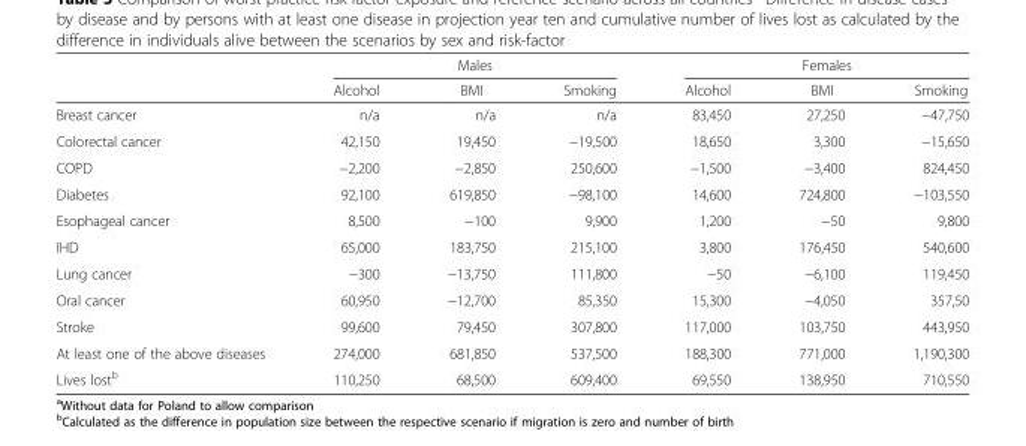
<table><thead><tr><td rowspan="2"></td><td colspan="3">Males</td><td colspan="3">Females</td></tr><tr><td>Alcohol</td><td>BMI</td><td>Smoking</td><td>Alcohol</td><td>BMI</td><td>Smoking</td></tr></thead><tbody><tr><td>Breast cancer</td><td>n/a</td><td>n/a</td><td>n/a</td><td>83,450</td><td>27,250</td><td>−47,750</td></tr><tr><td>Colorectal cancer</td><td>42,150</td><td>19,450</td><td>−19,500</td><td>18,650</td><td>3,300</td><td>−15,650</td></tr><tr><td>COPD</td><td>−2,200</td><td>−2,850</td><td>250,600</td><td>−1,500</td><td>−3,400</td><td>824,450</td></tr><tr><td>Diabetes</td><td>92,100</td><td>619,850</td><td>−98,100</td><td>14,600</td><td>724,800</td><td>−103,550</td></tr><tr><td>Esophageal cancer</td><td>8,500</td><td>−100</td><td>9,900</td><td>1,200</td><td>−50</td><td>9,800</td></tr><tr><td>IHD</td><td>65,000</td><td>183,750</td><td>215,100</td><td>3,800</td><td>176,450</td><td>540,600</td></tr><tr><td>Lung cancer</td><td>−300</td><td>−13,750</td><td>111,800</td><td>−50</td><td>−6,100</td><td>119,450</td></tr><tr><td>Oral cancer</td><td>60,950</td><td>−12,700</td><td>85,350</td><td>15,300</td><td>−4,050</td><td>357,50</td></tr><tr><td>Stroke</td><td>99,600</td><td>79,450</td><td>307,800</td><td>117,000</td><td>103,750</td><td>443,950</td></tr><tr><td>At least one of the above diseases</td><td>274,000</td><td>681,850</td><td>537,500</td><td>188,300</td><td>771,000</td><td>1,190,300</td></tr><tr><td>Lives lost<sup>b</sup></td><td>110,250</td><td>68,500</td><td>609,400</td><td>69,550</td><td>138,950</td><td>710,550</td></tr></tbody></table>